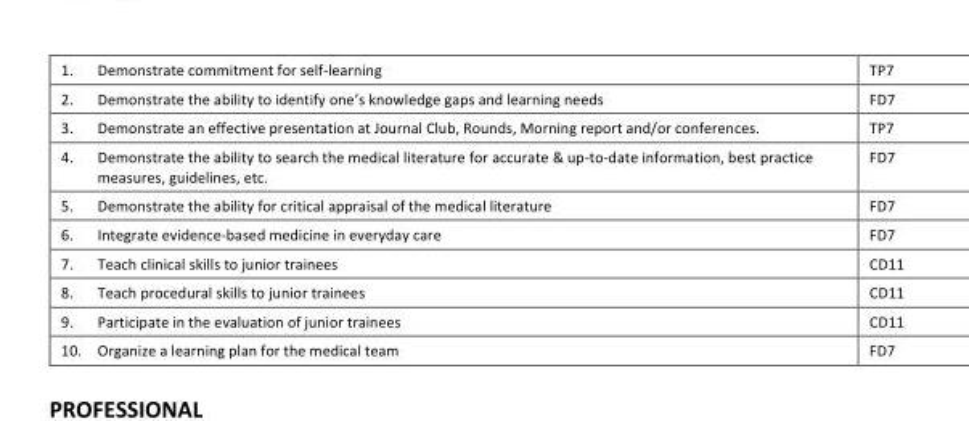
<table><tbody><tr><td>1.</td><td>Demonstrate commitment for self-learning</td><td>TP7</td></tr><tr><td>2.</td><td>Demonstrate the ability to identify one’s knowledge gaps and learning needs</td><td>FD7</td></tr><tr><td>3.</td><td>Demonstrate an effective presentation at Journal Club, Rounds, Morning report and/or conferences.</td><td>TP7</td></tr><tr><td>4.</td><td>Demonstrate the ability to search the medical literature for accurate &amp; up-to-date information, best practice measures, guidelines, etc.</td><td>FD7</td></tr><tr><td>5.</td><td>Demonstrate the ability for critical appraisal of the medical literature</td><td>FD7</td></tr><tr><td>6.</td><td>Integrate evidence-based medicine in everyday care</td><td>FD7</td></tr><tr><td>7.</td><td>Teach clinical skills to junior trainees</td><td>CD11</td></tr><tr><td>8.</td><td>Teach procedural skills to junior trainees</td><td>CD11</td></tr><tr><td>9.</td><td>Participate in the evaluation of junior trainees</td><td>CD11</td></tr><tr><td>10.</td><td>Organize a learning plan for the medical team</td><td>FD7</td></tr></tbody></table>